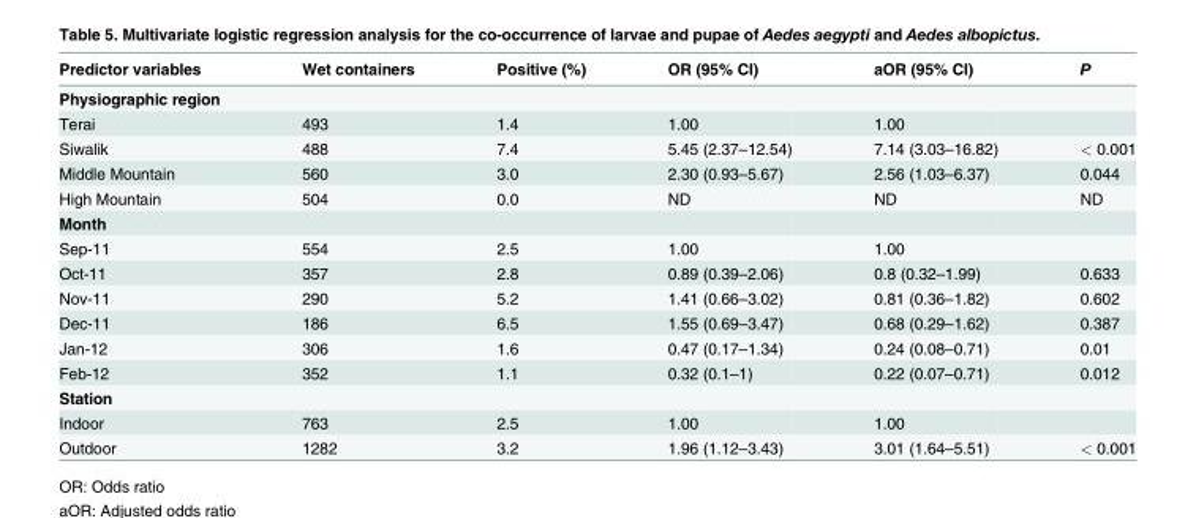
<table><thead><tr><td>Predictor variables</td><td>Wet containers</td><td>Positive (%)</td><td>OR (95% CI)</td><td>aOR (95% CI)</td><td>P</td></tr></thead><tbody><tr><td colspan="6">Physiographic region</td></tr><tr><td>Terai</td><td>493</td><td>1.4</td><td>1.00</td><td>1.00</td><td></td></tr><tr><td>Siwalik</td><td>488</td><td>7.4</td><td>5.45 (2.37–12.54)</td><td>7.14 (3.03–16.82)</td><td>&lt; 0.001</td></tr><tr><td>Middle Mountain</td><td>560</td><td>3.0</td><td>2.30 (0.93–5.67)</td><td>2.56 (1.03–6.37)</td><td>0.044</td></tr><tr><td>High Mountain</td><td>504</td><td>0.0</td><td>ND</td><td>ND</td><td>ND</td></tr><tr><td colspan="6">Month</td></tr><tr><td>Sep-11</td><td>554</td><td>2.5</td><td>1.00</td><td>1.00</td><td></td></tr><tr><td>Oct-11</td><td>357</td><td>2.8</td><td>0.89 (0.39–2.06)</td><td>0.8 (0.32–1.99)</td><td>0.633</td></tr><tr><td>Nov-11</td><td>290</td><td>5.2</td><td>1.41 (0.66–3.02)</td><td>0.81 (0.36–1.82)</td><td>0.602</td></tr><tr><td>Dec-11</td><td>186</td><td>6.5</td><td>1.55 (0.69–3.47)</td><td>0.68 (0.29–1.62)</td><td>0.387</td></tr><tr><td>Jan-12</td><td>306</td><td>1.6</td><td>0.47 (0.17–1.34)</td><td>0.24 (0.08–0.71)</td><td>0.01</td></tr><tr><td>Feb-12</td><td>352</td><td>1.1</td><td>0.32 (0.1–1)</td><td>0.22 (0.07–0.71)</td><td>0.012</td></tr><tr><td colspan="6">Station</td></tr><tr><td>Indoor</td><td>763</td><td>2.5</td><td>1.00</td><td>1.00</td><td></td></tr><tr><td>Outdoor</td><td>1282</td><td>3.2</td><td>1.96 (1.12–3.43)</td><td>3.01 (1.64–5.51)</td><td>&lt; 0.001</td></tr></tbody></table>